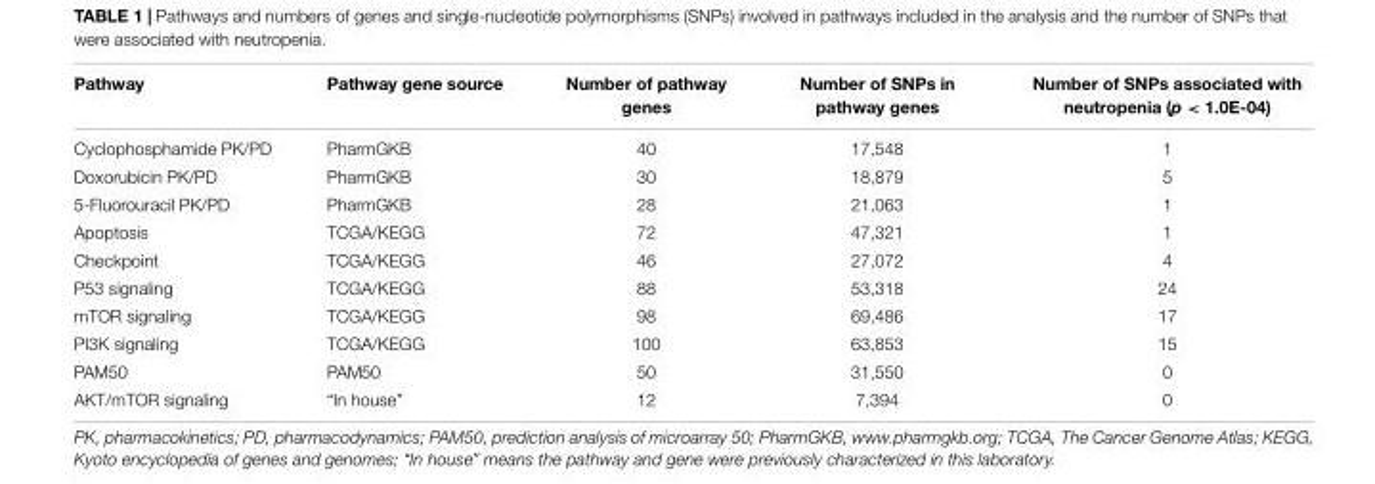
<table><thead><tr><td>Pathway</td><td>Pathway gene source</td><td>Number of pathway genes</td><td>Number of SNPs in pathway genes</td><td>Number of SNPs associated with neutropenia (p &lt; 1.0E-04)</td></tr></thead><tbody><tr><td>Cyclophosphamide PK/PD</td><td>PharmGKB</td><td>40</td><td>17,548</td><td>1</td></tr><tr><td>Doxorubicin PK/PD</td><td>PharmGKB</td><td>30</td><td>18,879</td><td>5</td></tr><tr><td>5-Fluorouracil PK/PD</td><td>PharmGKB</td><td>28</td><td>21,063</td><td>1</td></tr><tr><td>Apoptosis</td><td>TCGA/KEGG</td><td>72</td><td>47,321</td><td>1</td></tr><tr><td>Checkpoint</td><td>TCGA/KEGG</td><td>46</td><td>27,072</td><td>4</td></tr><tr><td>P53 signaling</td><td>TCGA/KEGG</td><td>88</td><td>53,318</td><td>24</td></tr><tr><td>mTOR signaling</td><td>TCGA/KEGG</td><td>98</td><td>69,486</td><td>17</td></tr><tr><td>PI3K signaling</td><td>TCGA/KEGG</td><td>100</td><td>63,853</td><td>15</td></tr><tr><td>PAM50</td><td>PAM50</td><td>50</td><td>31,550</td><td>0</td></tr><tr><td>AKT/mTOR signaling</td><td>“In house”</td><td>12</td><td>7,394</td><td>0</td></tr></tbody></table>